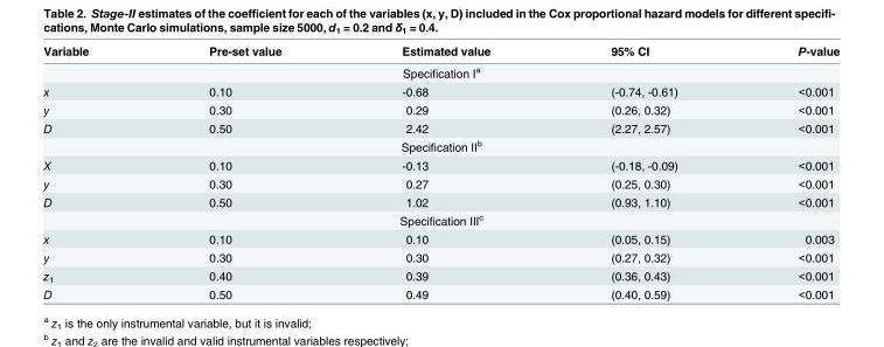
<table><thead><tr><td>Variable</td><td>Pre-set value</td><td>Estimated value</td><td>95% CI</td><td>P-value</td></tr></thead><tbody><tr><td colspan="5">Specification I<sup>a</sup></td></tr><tr><td>x</td><td>0.10</td><td>-0.68</td><td>(-0.74, -0.61)</td><td>&lt;0.001</td></tr><tr><td>y</td><td>0.30</td><td>0.29</td><td>(0.26, 0.32)</td><td>&lt;0.001</td></tr><tr><td>D</td><td>0.50</td><td>2.42</td><td>(2.27, 2.57)</td><td>&lt;0.001</td></tr><tr><td colspan="5">Specification II<sup>b</sup></td></tr><tr><td>X</td><td>0.10</td><td>-0.13</td><td>(-0.18, -0.09)</td><td>&lt;0.001</td></tr><tr><td>y</td><td>0.30</td><td>0.27</td><td>(0.25, 0.30)</td><td>&lt;0.001</td></tr><tr><td>D</td><td>0.50</td><td>1.02</td><td>(0.93, 1.10)</td><td>&lt;0.001</td></tr><tr><td colspan="5">Specification III<sup>c</sup></td></tr><tr><td>x</td><td>0.10</td><td>0.10</td><td>(0.05, 0.15)</td><td>0.003</td></tr><tr><td>y</td><td>0.30</td><td>0.30</td><td>(0.27, 0.32)</td><td>&lt;0.001</td></tr><tr><td>z<sub>1</sub></td><td>0.40</td><td>0.39</td><td>(0.36, 0.43)</td><td>&lt;0.001</td></tr><tr><td>D</td><td>0.50</td><td>0.49</td><td>(0.40, 0.59)</td><td>&lt;0.001</td></tr></tbody></table>